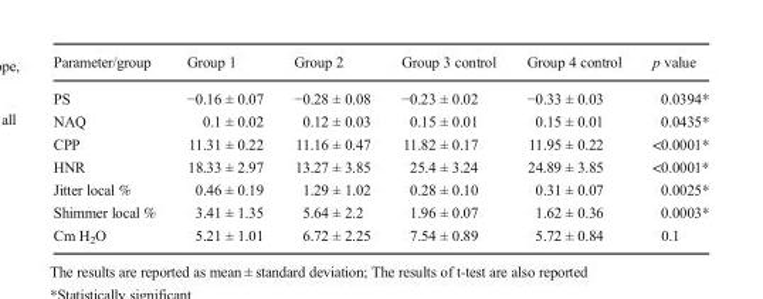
<table><thead><tr><td>Parameter/group</td><td>Group 1</td><td>Group 2</td><td>Group 3 control</td><td>Group 4 control</td><td>p value</td></tr></thead><tbody><tr><td>PS</td><td>−0.16 ± 0.07</td><td>−0.28 ± 0.08</td><td>−0.23 ± 0.02</td><td>−0.33 ± 0.03</td><td>0.0394*</td></tr><tr><td>NAQ</td><td>0.1 ± 0.02</td><td>0.12 ± 0.03</td><td>0.15 ± 0.01</td><td>0.15 ± 0.01</td><td>0.0435*</td></tr><tr><td>CPP</td><td>11.31 ± 0.22</td><td>11.16 ± 0.47</td><td>11.82 ± 0.17</td><td>11.95 ± 0.22</td><td>&lt;0.0001*</td></tr><tr><td>HNR</td><td>18.33 ± 2.97</td><td>13.27 ± 3.85</td><td>25.4 ± 3.24</td><td>24.89 ± 3.85</td><td>&lt;0.0001*</td></tr><tr><td>Jitter local %</td><td>0.46 ± 0.19</td><td>1.29 ± 1.02</td><td>0.28 ± 0.10</td><td>0.31 ± 0.07</td><td>0.0025*</td></tr><tr><td>Shimmer local %</td><td>3.41 ± 1.35</td><td>5.64 ± 2.2</td><td>1.96 ± 0.07</td><td>1.62 ± 0.36</td><td>0.0003*</td></tr><tr><td>Cm H<sub>2</sub>O</td><td>5.21 ± 1.01</td><td>6.72 ± 2.25</td><td>7.54 ± 0.89</td><td>5.72 ± 0.84</td><td>0.1</td></tr></tbody></table>